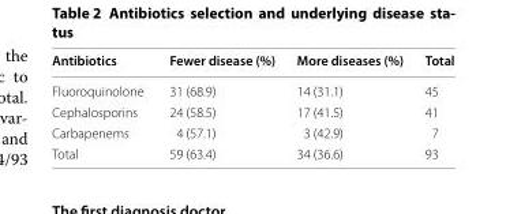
<table><thead><tr><td>Antibiotics</td><td>Fewer disease (%)</td><td>More diseases (%)</td><td>Total</td></tr></thead><tbody><tr><td>Fluoroquinolone</td><td>31 (68.9)</td><td>14 (31.1)</td><td>45</td></tr><tr><td>Cephalosporins</td><td>24 (58.5)</td><td>17 (41.5)</td><td>41</td></tr><tr><td>Carbapenems</td><td>4 (57.1)</td><td>3 (42.9)</td><td>7</td></tr><tr><td>Total</td><td>59 (63.4)</td><td>34 (36.6)</td><td>93</td></tr></tbody></table>